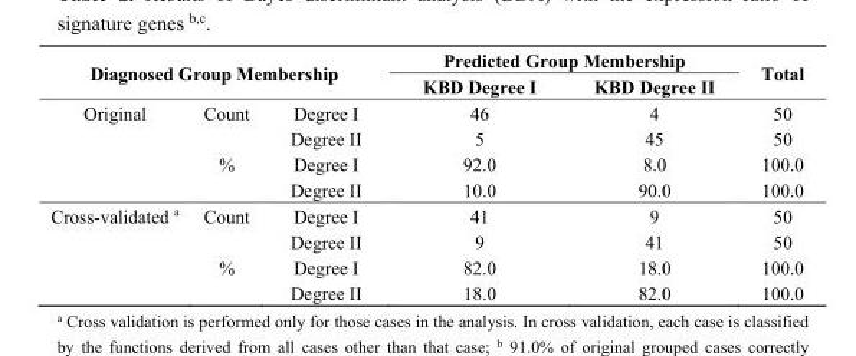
<table><thead><tr><td rowspan="2" colspan="3">Diagnosed Group Membership</td><td colspan="2">Predicted Group Membership</td><td rowspan="3">Total 50</td></tr><tr><td rowspan="2">KBD Degree I 46</td><td rowspan="2">KBD Degree II 4</td></tr><tr><td>Original</td><td>Count</td><td>Degree I</td></tr></thead><tbody><tr><td></td><td></td><td>Degree II</td><td>5</td><td>45</td><td>50</td></tr><tr><td></td><td>%</td><td>Degree I</td><td>92.0</td><td>8.0</td><td>100.0</td></tr><tr><td></td><td></td><td>Degree II</td><td>10.0</td><td>90.0</td><td>100.0</td></tr><tr><td rowspan="4">Cross-validated <sup>a</sup></td><td>Count</td><td>Degree I</td><td>41</td><td>9</td><td>50</td></tr><tr><td></td><td>Degree II</td><td>9</td><td>41</td><td>50</td></tr><tr><td>%</td><td>Degree I</td><td>82.0</td><td>18.0</td><td>100.0</td></tr><tr><td></td><td>Degree II</td><td>18.0</td><td>82.0</td><td>100.0</td></tr></tbody></table>